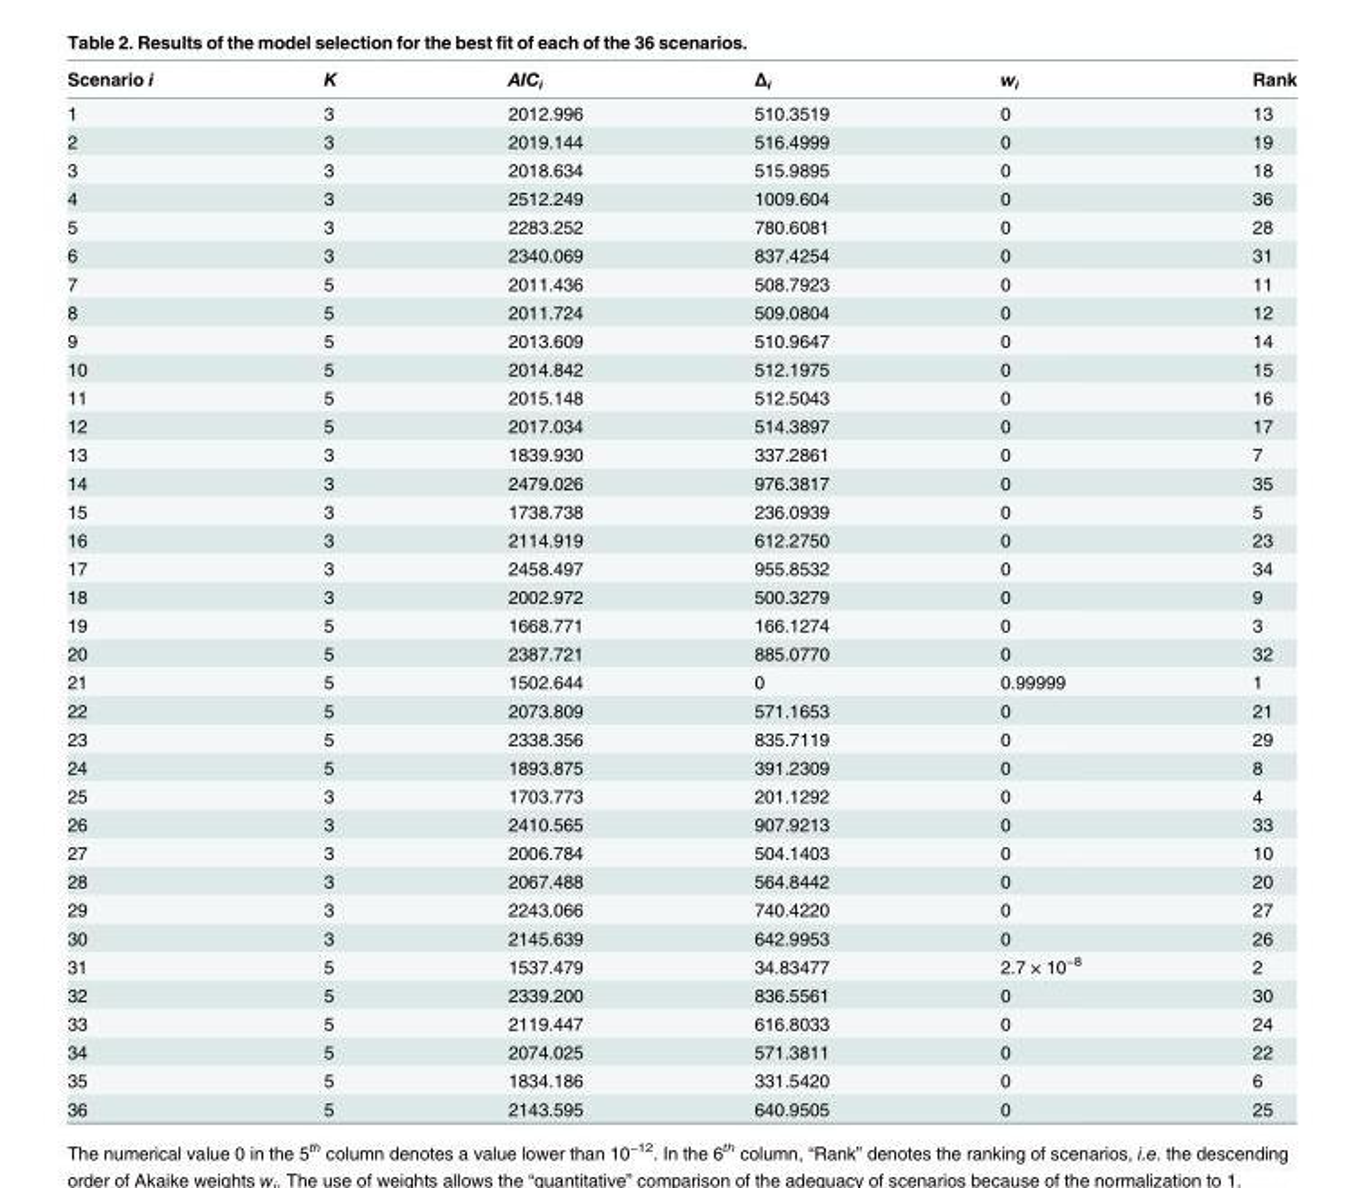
<table><thead><tr><td>Scenario i</td><td>K</td><td>AIC<sub>i</sub></td><td>Δ<sub>i</sub></td><td>w<sub>i</sub></td><td>Rank</td></tr></thead><tbody><tr><td>1</td><td>3</td><td>2012.996</td><td>510.3519</td><td>0</td><td>13</td></tr><tr><td>2</td><td>3</td><td>2019.144</td><td>516.4999</td><td>0</td><td>19</td></tr><tr><td>3</td><td>3</td><td>2018.634</td><td>515.9895</td><td>0</td><td>18</td></tr><tr><td>4</td><td>3</td><td>2512.249</td><td>1009.604</td><td>0</td><td>36</td></tr><tr><td>5</td><td>3</td><td>2283.252</td><td>780.6081</td><td>0</td><td>28</td></tr><tr><td>6</td><td>3</td><td>2340.069</td><td>837.4254</td><td>0</td><td>31</td></tr><tr><td>7</td><td>5</td><td>2011.436</td><td>508.7923</td><td>0</td><td>11</td></tr><tr><td>8</td><td>5</td><td>2011.724</td><td>509.0804</td><td>0</td><td>12</td></tr><tr><td>9</td><td>5</td><td>2013.609</td><td>510.9647</td><td>0</td><td>14</td></tr><tr><td>10</td><td>5</td><td>2014.842</td><td>512.1975</td><td>0</td><td>15</td></tr><tr><td>11</td><td>5</td><td>2015.148</td><td>512.5043</td><td>0</td><td>16</td></tr><tr><td>12</td><td>5</td><td>2017.034</td><td>514.3897</td><td>0</td><td>17</td></tr><tr><td>13</td><td>3</td><td>1839.930</td><td>337.2861</td><td>0</td><td>7</td></tr><tr><td>14</td><td>3</td><td>2479.026</td><td>976.3817</td><td>0</td><td>35</td></tr><tr><td>15</td><td>3</td><td>1738.738</td><td>236.0939</td><td>0</td><td>5</td></tr><tr><td>16</td><td>3</td><td>2114.919</td><td>612.2750</td><td>0</td><td>23</td></tr><tr><td>17</td><td>3</td><td>2458.497</td><td>955.8532</td><td>0</td><td>34</td></tr><tr><td>18</td><td>3</td><td>2002.972</td><td>500.3279</td><td>0</td><td>9</td></tr><tr><td>19</td><td>5</td><td>1668.771</td><td>166.1274</td><td>0</td><td>3</td></tr><tr><td>20</td><td>5</td><td>2387.721</td><td>885.0770</td><td>0</td><td>32</td></tr><tr><td>21</td><td>5</td><td>1502.644</td><td>0</td><td>0.99999</td><td>1</td></tr><tr><td>22</td><td>5</td><td>2073.809</td><td>571.1653</td><td>0</td><td>21</td></tr><tr><td>23</td><td>5</td><td>2338.356</td><td>835.7119</td><td>0</td><td>29</td></tr><tr><td>24</td><td>5</td><td>1893.875</td><td>391.2309</td><td>0</td><td>8</td></tr><tr><td>25</td><td>3</td><td>1703.773</td><td>201.1292</td><td>0</td><td>4</td></tr><tr><td>26</td><td>3</td><td>2410.565</td><td>907.9213</td><td>0</td><td>33</td></tr><tr><td>27</td><td>3</td><td>2006.784</td><td>504.1403</td><td>0</td><td>10</td></tr><tr><td>28</td><td>3</td><td>2067.488</td><td>564.8442</td><td>0</td><td>20</td></tr><tr><td>29</td><td>3</td><td>2243.066</td><td>740.4220</td><td>0</td><td>27</td></tr><tr><td>30</td><td>3</td><td>2145.639</td><td>642.9953</td><td>0</td><td>26</td></tr><tr><td>31</td><td>5</td><td>1537.479</td><td>34.83477</td><td>2.7 × 10<sup>−8</sup></td><td>2</td></tr><tr><td>32</td><td>5</td><td>2339.200</td><td>836.5561</td><td>0</td><td>30</td></tr><tr><td>33</td><td>5</td><td>2119.447</td><td>616.8033</td><td>0</td><td>24</td></tr><tr><td>34</td><td>5</td><td>2074.025</td><td>571.3811</td><td>0</td><td>22</td></tr><tr><td>35</td><td>5</td><td>1834.186</td><td>331.5420</td><td>0</td><td>6</td></tr><tr><td>36</td><td>5</td><td>2143.595</td><td>640.9505</td><td>0</td><td>25</td></tr></tbody></table>